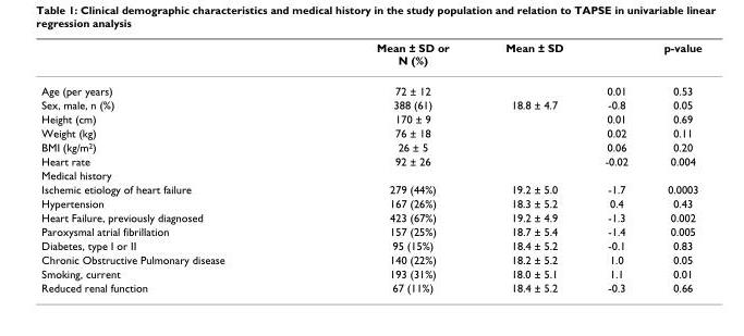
<table><thead><tr><td></td><td>Mean ± SD or N (%)</td><td>Mean ± SD</td><td></td><td>p-value</td></tr></thead><tbody><tr><td>Age (per years)</td><td>72 ± 12</td><td></td><td>0.01</td><td>0.53</td></tr><tr><td>Sex, male, n (%)</td><td>388 (61)</td><td>18.8 ± 4.7</td><td>-0.8</td><td>0.05</td></tr><tr><td>Height (cm)</td><td>170 ± 9</td><td></td><td>0.01</td><td>0.69</td></tr><tr><td>Weight (kg)</td><td>76 ± 18</td><td></td><td>0.02</td><td>0.11</td></tr><tr><td>BMI (kg/m<sup>2</sup>)</td><td>26 ± 5</td><td></td><td>0.06</td><td>0.20</td></tr><tr><td>Heart rate</td><td>92 ± 26</td><td></td><td>-0.02</td><td>0.004</td></tr><tr><td colspan="5">Medical history</td></tr><tr><td>Ischemic etiology of heart failure</td><td>279 (44%)</td><td>19.2 ± 5.0</td><td>-1.7</td><td>0.0003</td></tr><tr><td>Hypertension</td><td>167 (26%)</td><td>18.3 ± 5.2</td><td>0.4</td><td>0.43</td></tr><tr><td>Heart Failure, previously diagnosed</td><td>423 (67%)</td><td>19.2 ± 4.9</td><td>-1.3</td><td>0.002</td></tr><tr><td>Paroxysmal atrial fibrillation</td><td>157 (25%)</td><td>18.7 ± 5.4</td><td>-1.4</td><td>0.005</td></tr><tr><td>Diabetes, type I or II</td><td>95 (15%)</td><td>18.4 ± 5.2</td><td>-0.1</td><td>0.83</td></tr><tr><td>Chronic Obstructive Pulmonary disease</td><td>140 (22%)</td><td>18.2 ± 5.2</td><td>1.0</td><td>0.05</td></tr><tr><td>Smoking, current</td><td>193 (31%)</td><td>18.0 ± 5.1</td><td>1.1</td><td>0.01</td></tr><tr><td>Reduced renal function</td><td>67 (11%)</td><td>18.4 ± 5.2</td><td>-0.3</td><td>0.66</td></tr></tbody></table>